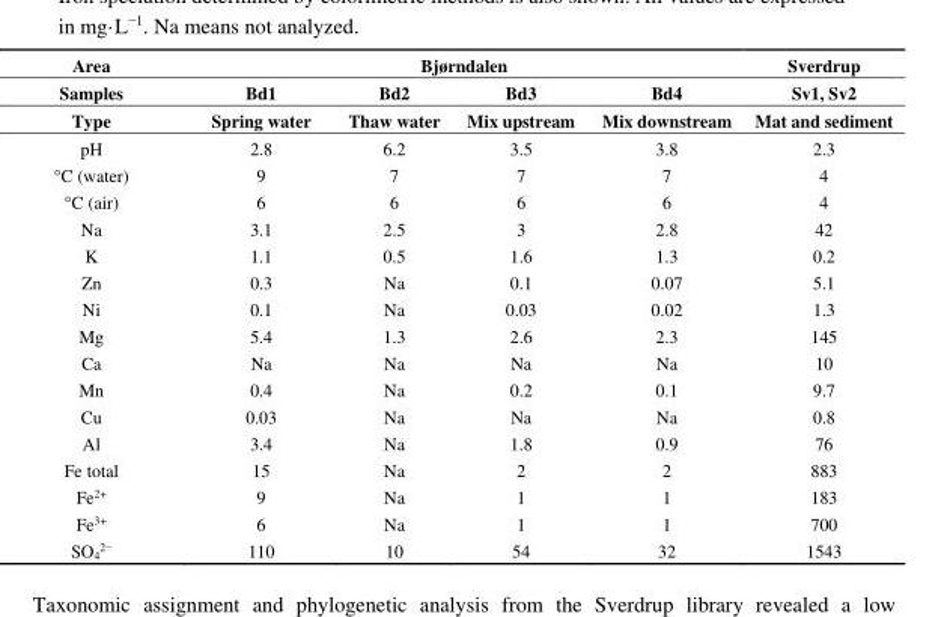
<table><thead><tr><td rowspan="3">Area Samples Type</td><td colspan="4">Bjørndalen</td><td rowspan="3">Sverdrup Sv1, Sv2 Mat and sediment</td></tr><tr><td rowspan="2">Bd1 Spring water</td><td rowspan="2">Bd2 Thaw water</td><td rowspan="2">Bd3 Mix upstream</td><td rowspan="2">Bd4 Mix downstream</td></tr><tr></tr></thead><tbody><tr><td>pH</td><td>2.8</td><td>6.2</td><td>3.5</td><td>3.8</td><td>2.3</td></tr><tr><td>°C (water)</td><td>9</td><td>7</td><td>7</td><td>7</td><td>4</td></tr><tr><td>°C (air)</td><td>6</td><td>6</td><td>6</td><td>6</td><td>4</td></tr><tr><td>Na</td><td>3.1</td><td>2.5</td><td>3</td><td>2.8</td><td>42</td></tr><tr><td>K</td><td>1.1</td><td>0.5</td><td>1.6</td><td>1.3</td><td>0.2</td></tr><tr><td>Zn</td><td>0.3</td><td>Na</td><td>0.1</td><td>0.07</td><td>5.1</td></tr><tr><td>Ni</td><td>0.1</td><td>Na</td><td>0.03</td><td>0.02</td><td>1.3</td></tr><tr><td>Mg</td><td>5.4</td><td>1.3</td><td>2.6</td><td>2.3</td><td>145</td></tr><tr><td>Ca</td><td>Na</td><td>Na</td><td>Na</td><td>Na</td><td>10</td></tr><tr><td>Mn</td><td>0.4</td><td>Na</td><td>0.2</td><td>0.1</td><td>9.7</td></tr><tr><td>Cu</td><td>0.03</td><td>Na</td><td>Na</td><td>Na</td><td>0.8</td></tr><tr><td>Al</td><td>3.4</td><td>Na</td><td>1.8</td><td>0.9</td><td>76</td></tr><tr><td>Fe total</td><td>15</td><td>Na</td><td>2</td><td>2</td><td>883</td></tr><tr><td>Fe<sup>2+</sup></td><td>9</td><td>Na</td><td>1</td><td>1</td><td>183</td></tr><tr><td>Fe<sup>3+</sup></td><td>6</td><td>Na</td><td>1</td><td>1</td><td>700</td></tr><tr><td>SO<sub>4</sub><sup>2−</sup></td><td>110</td><td>10</td><td>54</td><td>32</td><td>1543</td></tr></tbody></table>